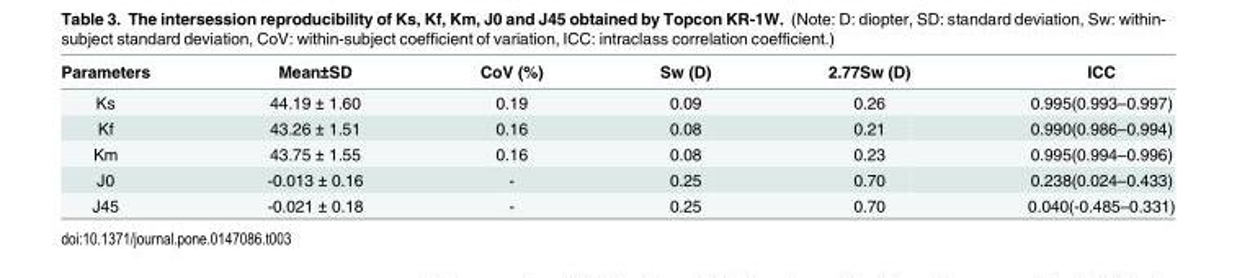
<table><thead><tr><td>Parameters</td><td>Mean±SD</td><td>CoV (%)</td><td>Sw (D)</td><td>2.77Sw (D)</td><td>ICC</td></tr></thead><tbody><tr><td>Ks</td><td>44.19 ± 1.60</td><td>0.19</td><td>0.09</td><td>0.26</td><td>0.995(0.993–0.997)</td></tr><tr><td>Kf</td><td>43.26 ± 1.51</td><td>0.16</td><td>0.08</td><td>0.21</td><td>0.990(0.986–0.994)</td></tr><tr><td>Km</td><td>43.75 ± 1.55</td><td>0.16</td><td>0.08</td><td>0.23</td><td>0.995(0.994–0.996)</td></tr><tr><td>J0</td><td>-0.013 ± 0.16</td><td>-</td><td>0.25</td><td>0.70</td><td>0.238(0.024–0.433)</td></tr><tr><td>J45</td><td>-0.021 ± 0.18</td><td>-</td><td>0.25</td><td>0.70</td><td>0.040(-0.485–0.331)</td></tr></tbody></table>